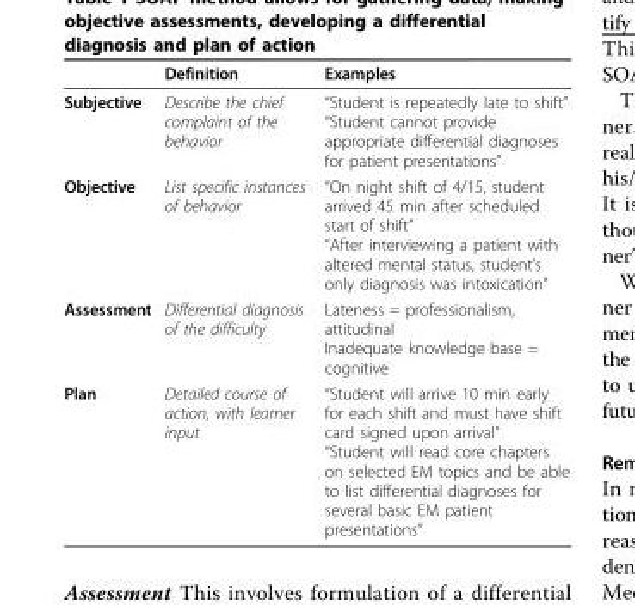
<table><thead><tr><td></td><td>Definition</td><td>Examples</td></tr></thead><tbody><tr><td>Subjective</td><td>Describe the chief complaint of the behavior</td><td>“Student is repeatedly late to shift” “Student cannot provide appropriate differential diagnoses for patient presentations”</td></tr><tr><td>Objective</td><td>List specific instances of behavior</td><td>“On night shift of 4/15, student arrived 45 min after scheduled start of shift” “After interviewing a patient with altered mental status, student’s only diagnosis was intoxication”</td></tr><tr><td>Assessment</td><td>Differential diagnosis of the difficulty</td><td>Lateness = professionalism, attitudinal Inadequate knowledge base = cognitive</td></tr><tr><td>Plan</td><td>Detailed course of action, with learner input</td><td>“Student will arrive 10 min early for each shift and must have shift card signed upon arrival” “Student will read core chapters on selected EM topics and be able to list differential diagnoses for several basic EM patient presentations”</td></tr></tbody></table>